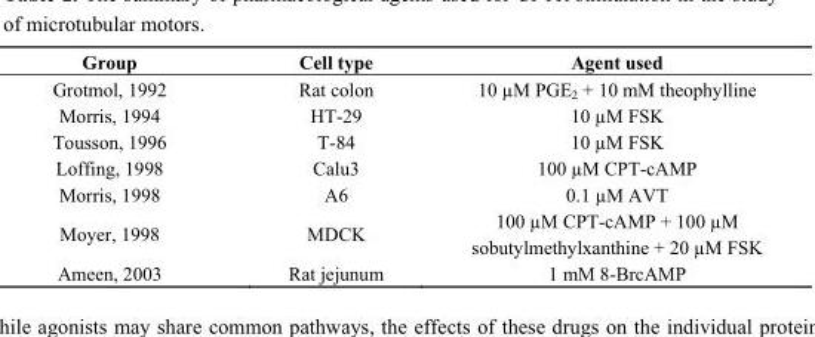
<table><thead><tr><td>Group</td><td>Cell type</td><td>Agent used</td></tr></thead><tbody><tr><td>Grotmol, 1992</td><td>Rat colon</td><td>10 µM PGE<sub>2</sub> + 10 mM theophylline</td></tr><tr><td>Morris, 1994</td><td>HT-29</td><td>10 µM FSK</td></tr><tr><td>Tousson, 1996</td><td>T-84</td><td>10 µM FSK</td></tr><tr><td>Loffing, 1998</td><td>Calu3</td><td>100 µM CPT-cAMP</td></tr><tr><td>Morris, 1998</td><td>A6</td><td>0.1 µM AVT</td></tr><tr><td>Moyer, 1998</td><td>MDCK</td><td>100 µM CPT-cAMP + 100 µM sobutylmethylxanthine + 20 µM FSK</td></tr><tr><td>Ameen, 2003</td><td>Rat jejunum</td><td>1 mM 8-BrcAMP</td></tr></tbody></table>